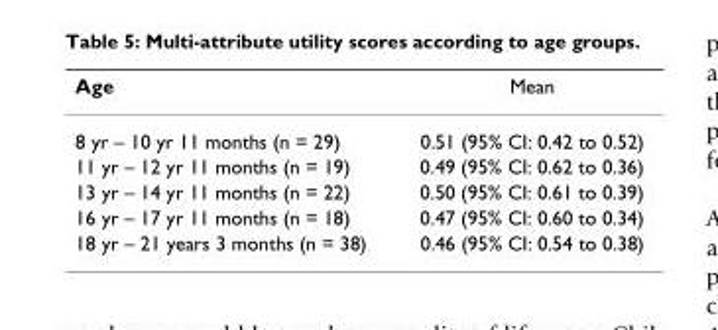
<table><thead><tr><td>Age</td><td>Mean</td></tr></thead><tbody><tr><td>8 yr – 10 yr 11 months (n = 29)</td><td>0.51 (95% CI: 0.42 to 0.52)</td></tr><tr><td>11 yr – 12 yr 11 months (n = 19)</td><td>0.49 (95% CI: 0.62 to 0.36)</td></tr><tr><td>13 yr – 14 yr 11 months (n = 22)</td><td>0.50 (95% CI: 0.61 to 0.39)</td></tr><tr><td>16 yr – 17 yr 11 months (n = 18)</td><td>0.47 (95% CI: 0.60 to 0.34)</td></tr><tr><td>18 yr – 21 years 3 months (n = 38)</td><td>0.46 (95% CI: 0.54 to 0.38)</td></tr></tbody></table>